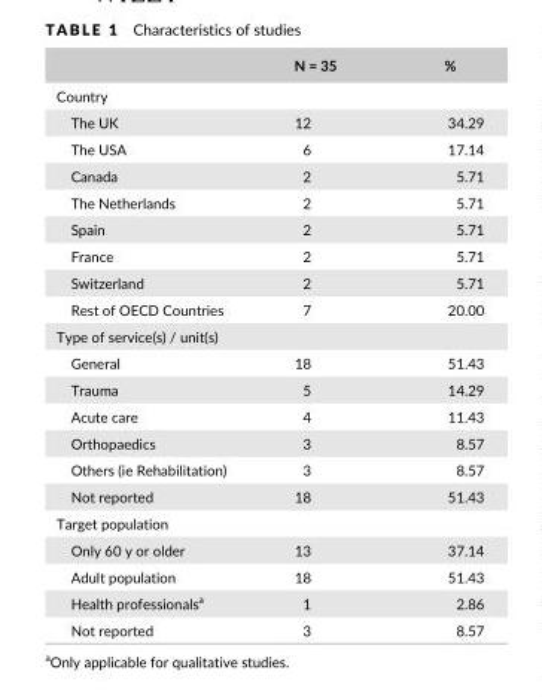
<table><thead><tr><td></td><td>N = 35</td><td>%</td></tr></thead><tbody><tr><td colspan="3">Country</td></tr><tr><td>The UK</td><td>12</td><td>34.29</td></tr><tr><td>The USA</td><td>6</td><td>17.14</td></tr><tr><td>Canada</td><td>2</td><td>5.71</td></tr><tr><td>The Netherlands</td><td>2</td><td>5.71</td></tr><tr><td>Spain</td><td>2</td><td>5.71</td></tr><tr><td>France</td><td>2</td><td>5.71</td></tr><tr><td>Switzerland</td><td>2</td><td>5.71</td></tr><tr><td>Rest of OECD Countries</td><td>7</td><td>20.00</td></tr><tr><td colspan="3">Type of service(s) / unit(s)</td></tr><tr><td>General</td><td>18</td><td>51.43</td></tr><tr><td>Trauma</td><td>5</td><td>14.29</td></tr><tr><td>Acute care</td><td>4</td><td>11.43</td></tr><tr><td>Orthopaedics</td><td>3</td><td>8.57</td></tr><tr><td>Others (ie Rehabilitation)</td><td>3</td><td>8.57</td></tr><tr><td>Not reported</td><td>18</td><td>51.43</td></tr><tr><td colspan="3">Target population</td></tr><tr><td>Only 60 y or older</td><td>13</td><td>37.14</td></tr><tr><td>Adult population</td><td>18</td><td>51.43</td></tr><tr><td>Health professionals<sup>a</sup></td><td>1</td><td>2.86</td></tr><tr><td>Not reported</td><td>3</td><td>8.57</td></tr></tbody></table>